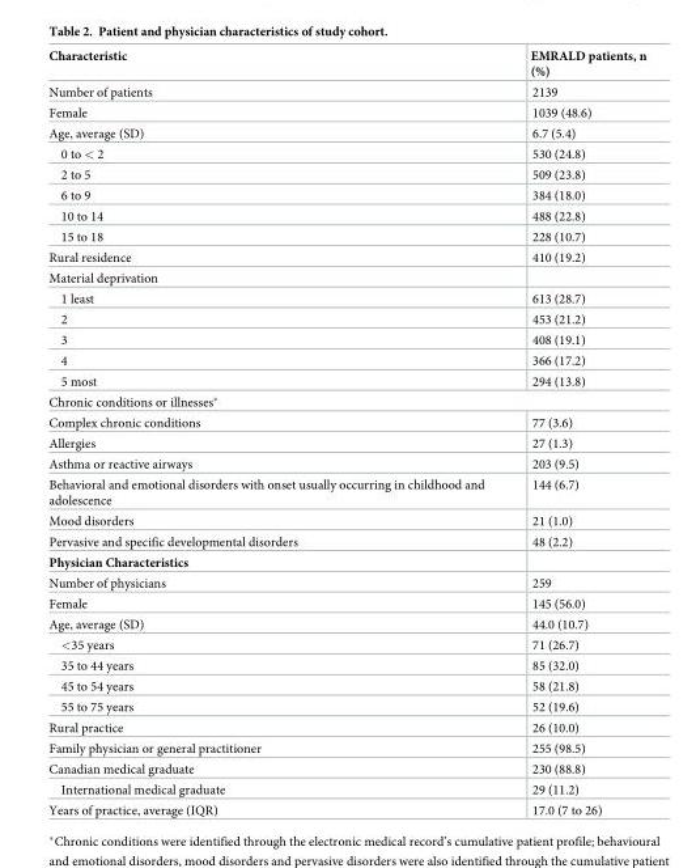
<table><thead><tr><td>Characteristic</td><td>EMRALD patients, n (%)</td></tr></thead><tbody><tr><td>Number of patients</td><td>2139</td></tr><tr><td>Female</td><td>1039 (48.6)</td></tr><tr><td>Age, average (SD)</td><td>6.7 (5.4)</td></tr><tr><td>0 to &lt; 2</td><td>530 (24.8)</td></tr><tr><td>2 to 5</td><td>509 (23.8)</td></tr><tr><td>6 to 9</td><td>384 (18.0)</td></tr><tr><td>10 to 14</td><td>488 (22.8)</td></tr><tr><td>15 to 18</td><td>228 (10.7)</td></tr><tr><td>Rural residence</td><td>410 (19.2)</td></tr><tr><td colspan="2">Material deprivation</td></tr><tr><td>1 least</td><td>613 (28.7)</td></tr><tr><td>2</td><td>453 (21.2)</td></tr><tr><td>3</td><td>408 (19.1)</td></tr><tr><td>4</td><td>366 (17.2)</td></tr><tr><td>5 most</td><td>294 (13.8)</td></tr><tr><td colspan="2">Chronic conditions or illnesses*</td></tr><tr><td>Complex chronic conditions</td><td>77 (3.6)</td></tr><tr><td>Allergies</td><td>27 (1.3)</td></tr><tr><td>Asthma or reactive airways</td><td>203 (9.5)</td></tr><tr><td>Behavioral and emotional disorders with onset usually occurring in childhood and adolescence</td><td>144 (6.7)</td></tr><tr><td>Mood disorders</td><td>21 (1.0)</td></tr><tr><td>Pervasive and specific developmental disorders</td><td>48 (2.2)</td></tr><tr><td colspan="2">Physician Characteristics</td></tr><tr><td>Number of physicians</td><td>259</td></tr><tr><td>Female</td><td>145 (56.0)</td></tr><tr><td>Age, average (SD)</td><td>44.0 (10.7)</td></tr><tr><td>&lt;35 years</td><td>71 (26.7)</td></tr><tr><td>35 to 44 years</td><td>85 (32.0)</td></tr><tr><td>45 to 54 years</td><td>58 (21.8)</td></tr><tr><td>55 to 75 years</td><td>52 (19.6)</td></tr><tr><td>Rural practice</td><td>26 (10.0)</td></tr><tr><td>Family physician or general practitioner</td><td>255 (98.5)</td></tr><tr><td>Canadian medical graduate</td><td>230 (88.8)</td></tr><tr><td>International medical graduate</td><td>29 (11.2)</td></tr><tr><td>Years of practice, average (IQR)</td><td>17.0 (7 to 26)</td></tr></tbody></table>